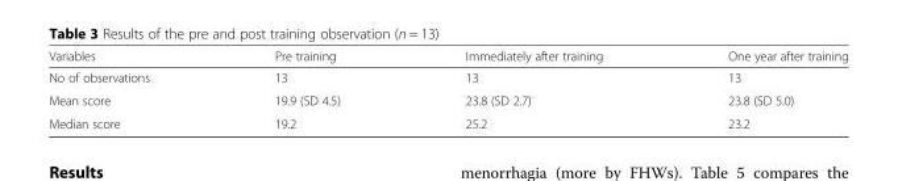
<table><thead><tr><td>Variables</td><td>Pre training</td><td>Immediately after training</td><td>One year after training</td></tr></thead><tbody><tr><td>No of observations</td><td>13</td><td>13</td><td>13</td></tr><tr><td>Mean score</td><td>19.9 (SD 4.5)</td><td>23.8 (SD 2.7)</td><td>23.8 (SD 5.0)</td></tr><tr><td>Median score</td><td>19.2</td><td>25.2</td><td>23.2</td></tr></tbody></table>